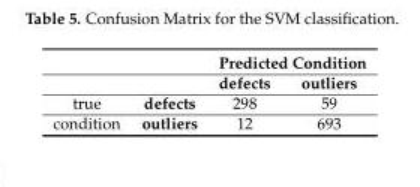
<table><thead><tr><td></td><td></td><td colspan="2">Predicted Condition</td></tr><tr><td colspan="2"></td><td>defects</td><td>outliers</td></tr></thead><tbody><tr><td>true</td><td>defects</td><td>298</td><td>59</td></tr><tr><td>condition</td><td>outliers</td><td>12</td><td>693</td></tr></tbody></table>